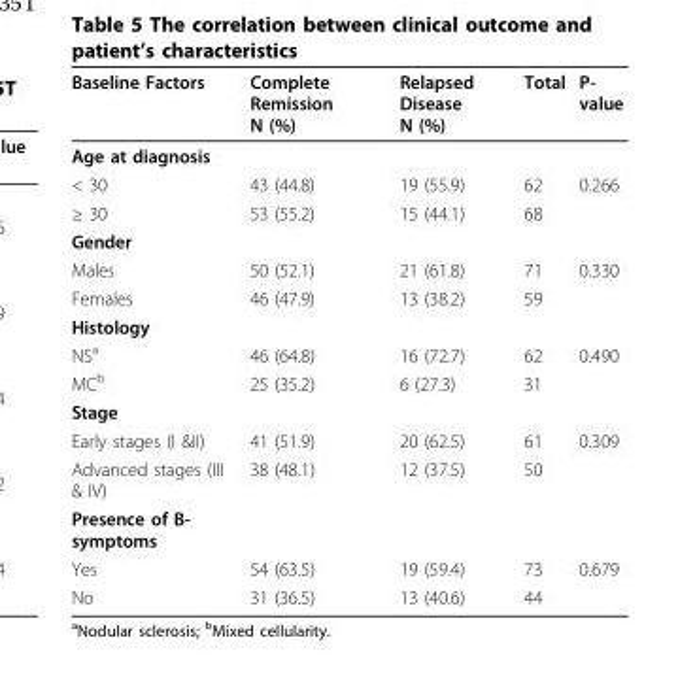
<table><thead><tr><td>Baseline Factors</td><td>Complete Remission N (%)</td><td>Relapsed Disease N (%)</td><td>Total</td><td>P- value</td></tr></thead><tbody><tr><td colspan="5">Age at diagnosis</td></tr><tr><td>&lt; 30</td><td>43 (44.8)</td><td>19 (55.9)</td><td>62</td><td>0.266</td></tr><tr><td>≥ 30</td><td>53 (55.2)</td><td>15 (44.1)</td><td>68</td><td></td></tr><tr><td colspan="5">Gender</td></tr><tr><td>Males</td><td>50 (52.1)</td><td>21 (61.8)</td><td>71</td><td>0.330</td></tr><tr><td>Females</td><td>46 (47.9)</td><td>13 (38.2)</td><td>59</td><td></td></tr><tr><td colspan="5">Histology</td></tr><tr><td>NS<sup>a</sup></td><td>46 (64.8)</td><td>16 (72.7)</td><td>62</td><td>0.490</td></tr><tr><td>MC<sup>b</sup></td><td>25 (35.2)</td><td>6 (27.3)</td><td>31</td><td></td></tr><tr><td colspan="5">Stage</td></tr><tr><td>Early stages (I &amp;II)</td><td>41 (51.9)</td><td>20 (62.5)</td><td>61</td><td>0.309</td></tr><tr><td>Advanced stages (III &amp; IV)</td><td>38 (48.1)</td><td>12 (37.5)</td><td>50</td><td></td></tr><tr><td colspan="5">Presence of B- symptoms</td></tr><tr><td>Yes</td><td>54 (63.5)</td><td>19 (59.4)</td><td>73</td><td>0.679</td></tr><tr><td>No</td><td>31 (36.5)</td><td>13 (40.6)</td><td>44</td><td></td></tr></tbody></table>